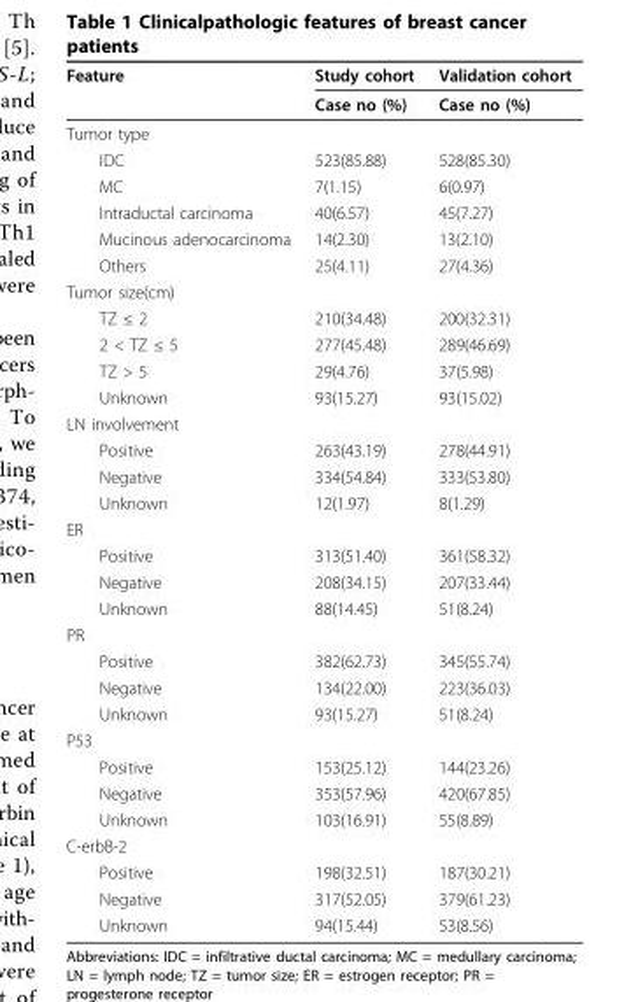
<table><thead><tr><td rowspan="2">Feature</td><td rowspan="2">Study cohort Case no (%)</td><td rowspan="2">Validation cohort Case no (%)</td></tr><tr></tr></thead><tbody><tr><td colspan="3">Tumor type</td></tr><tr><td>IDC</td><td>523(85.88)</td><td>528(85.30)</td></tr><tr><td>MC</td><td>7(1.15)</td><td>6(0.97)</td></tr><tr><td>Intraductal carcinoma</td><td>40(6.57)</td><td>45(7.27)</td></tr><tr><td>Mucinous adenocarcinoma</td><td>14(2.30)</td><td>13(2.10)</td></tr><tr><td>Others</td><td>25(4.11)</td><td>27(4.36)</td></tr><tr><td colspan="3">Tumor size(cm)</td></tr><tr><td>TZ ≤ 2</td><td>210(34.48)</td><td>200(32.31)</td></tr><tr><td>2 &lt; TZ ≤ 5</td><td>277(45.48)</td><td>289(46.69)</td></tr><tr><td>TZ &gt; 5</td><td>29(4.76)</td><td>37(5.98)</td></tr><tr><td>Unknown</td><td>93(15.27)</td><td>93(15.02)</td></tr><tr><td colspan="3">LN involvement</td></tr><tr><td>Positive</td><td>263(43.19)</td><td>278(44.91)</td></tr><tr><td>Negative</td><td>334(54.84)</td><td>333(53.80)</td></tr><tr><td>Unknown</td><td>12(1.97)</td><td>8(1.29)</td></tr><tr><td colspan="3">ER</td></tr><tr><td>Positive</td><td>313(51.40)</td><td>361(58.32)</td></tr><tr><td>Negative</td><td>208(34.15)</td><td>207(33.44)</td></tr><tr><td>Unknown</td><td>88(14.45)</td><td>51(8.24)</td></tr><tr><td colspan="3">PR</td></tr><tr><td>Positive</td><td>382(62.73)</td><td>345(55.74)</td></tr><tr><td>Negative</td><td>134(22.00)</td><td>223(36.03)</td></tr><tr><td>Unknown</td><td>93(15.27)</td><td>51(8.24)</td></tr><tr><td colspan="3">P53</td></tr><tr><td>Positive</td><td>153(25.12)</td><td>144(23.26)</td></tr><tr><td>Negative</td><td>353(57.96)</td><td>420(67.85)</td></tr><tr><td>Unknown</td><td>103(16.91)</td><td>55(8.89)</td></tr><tr><td colspan="3">C-erbB-2</td></tr><tr><td>Positive</td><td>198(32.51)</td><td>187(30.21)</td></tr><tr><td>Negative</td><td>317(52.05)</td><td>379(61.23)</td></tr><tr><td>Unknown</td><td>94(15.44)</td><td>53(8.56)</td></tr></tbody></table>